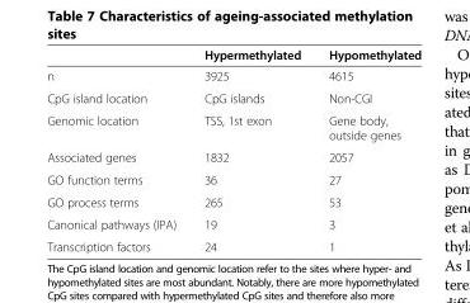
<table><thead><tr><td></td><td>Hypermethylated</td><td>Hypomethylated</td></tr></thead><tbody><tr><td>n</td><td>3925</td><td>4615</td></tr><tr><td>CpG island location</td><td>CpG islands</td><td>Non-CGI</td></tr><tr><td>Genomic location</td><td>TSS, 1st exon</td><td>Gene body, outside genes</td></tr><tr><td>Associated genes</td><td>1832</td><td>2057</td></tr><tr><td>GO function terms</td><td>36</td><td>27</td></tr><tr><td>GO process terms</td><td>265</td><td>53</td></tr><tr><td>Canonical pathways (IPA)</td><td>19</td><td>3</td></tr><tr><td>Transcription factors</td><td>24</td><td>1</td></tr></tbody></table>